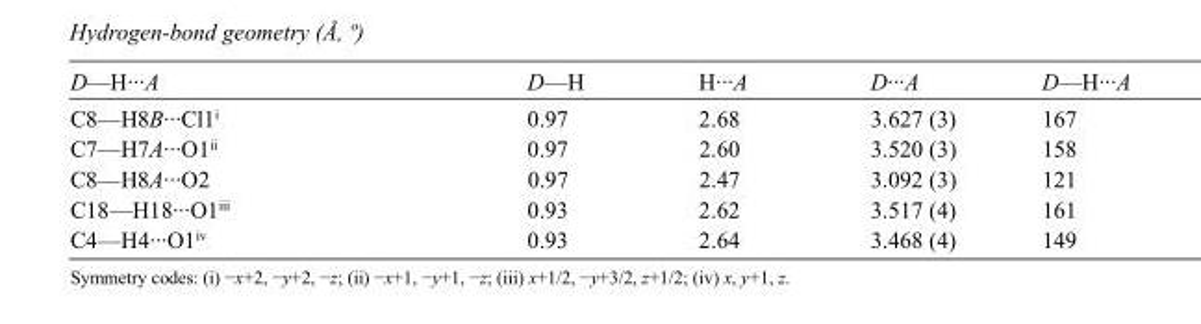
<table><tbody><tr><td>D—H···A</td><td>D—H</td><td>H···A</td><td>D···A</td><td>D—H···A</td></tr><tr><td>C8—H8B···Cl1<sup>i</sup></td><td>0.97</td><td>2.68</td><td>3.627 (3)</td><td>167</td></tr><tr><td>C7—H7A···O1<sup>ii</sup></td><td>0.97</td><td>2.60</td><td>3.520 (3)</td><td>158</td></tr><tr><td>C8—H8A···O2</td><td>0.97</td><td>2.47</td><td>3.092 (3)</td><td>121</td></tr><tr><td>C18—H18···O1<sup>iii</sup></td><td>0.93</td><td>2.62</td><td>3.517 (4)</td><td>161</td></tr><tr><td>C4—H4···O1<sup>iv</sup></td><td>0.93</td><td>2.64</td><td>3.468 (4)</td><td>149</td></tr></tbody></table>